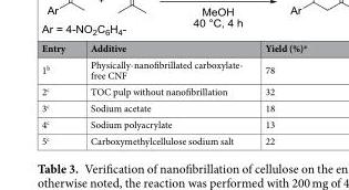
<table><thead><tr><td>Entry</td><td>Additive</td><td>Yield (%)<sup>a</sup></td></tr></thead><tbody><tr><td>1<sup>b</sup></td><td>Physically-nanofibrillated carboxylate- free CNF</td><td>78</td></tr><tr><td>2<sup>c</sup></td><td>TOC pulp without nanofibrillation</td><td>32</td></tr><tr><td>3<sup>c</sup></td><td>Sodium acetate</td><td>18</td></tr><tr><td>4<sup>c</sup></td><td>Sodium polyacrylate</td><td>13</td></tr><tr><td>5<sup>c</sup></td><td>Carboxymethylcellulose sodium salt</td><td>22</td></tr></tbody></table>